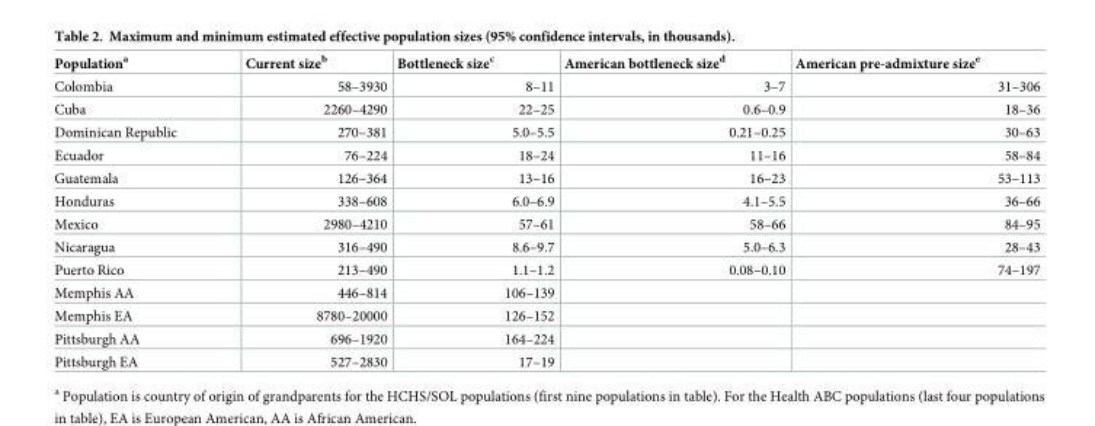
<table><thead><tr><td>Population<sup>a</sup></td><td>Current size<sup>b</sup></td><td>Bottleneck size<sup>c</sup></td><td>American bottleneck size<sup>d</sup></td><td>American pre-admixture size<sup>e</sup></td></tr></thead><tbody><tr><td>Colombia</td><td>58–3930</td><td>8–11</td><td>3–7</td><td>31–306</td></tr><tr><td>Cuba</td><td>2260–4290</td><td>22–25</td><td>0.6–0.9</td><td>18–36</td></tr><tr><td>Dominican Republic</td><td>270–381</td><td>5.0–5.5</td><td>0.21–0.25</td><td>30–63</td></tr><tr><td>Ecuador</td><td>76–224</td><td>18–24</td><td>11–16</td><td>58–84</td></tr><tr><td>Guatemala</td><td>126–364</td><td>13–16</td><td>16–23</td><td>53–113</td></tr><tr><td>Honduras</td><td>338–608</td><td>6.0–6.9</td><td>4.1–5.5</td><td>36–66</td></tr><tr><td>Mexico</td><td>2980–4210</td><td>57–61</td><td>58–66</td><td>84–95</td></tr><tr><td>Nicaragua</td><td>316–490</td><td>8.6–9.7</td><td>5.0–6.3</td><td>28–43</td></tr><tr><td>Puerto Rico</td><td>213–490</td><td>1.1–1.2</td><td>0.08–0.10</td><td>74–197</td></tr><tr><td>Memphis AA</td><td>446–814</td><td>106–139</td><td></td><td></td></tr><tr><td>Memphis EA</td><td>8780–20000</td><td>126–152</td><td></td><td></td></tr><tr><td>Pittsburgh AA</td><td>696–1920</td><td>164–224</td><td></td><td></td></tr><tr><td>Pittsburgh EA</td><td>527–2830</td><td>17–19</td><td></td><td></td></tr></tbody></table>